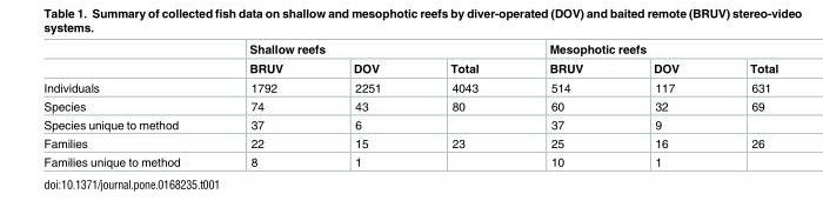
<table><thead><tr><td rowspan="2"></td><td colspan="3">Shallow reefs</td><td colspan="3">Mesophotic reefs</td></tr><tr><td>BRUV</td><td>DOV</td><td>Total</td><td>BRUV</td><td>DOV</td><td>Total</td></tr></thead><tbody><tr><td>Individuals</td><td>1792</td><td>2251</td><td>4043</td><td>514</td><td>117</td><td>631</td></tr><tr><td>Species</td><td>74</td><td>43</td><td>80</td><td>60</td><td>32</td><td>69</td></tr><tr><td>Species unique to method</td><td>37</td><td>6</td><td></td><td>37</td><td>9</td><td></td></tr><tr><td>Families</td><td>22</td><td>15</td><td>23</td><td>25</td><td>16</td><td>26</td></tr><tr><td>Families unique to method</td><td>8</td><td>1</td><td></td><td>10</td><td>1</td><td></td></tr></tbody></table>